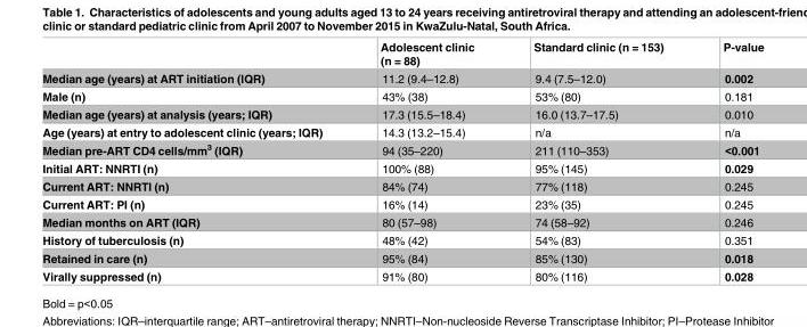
<table><thead><tr><td></td><td>Adolescent clinic (n = 88)</td><td>Standard clinic (n = 153)</td><td>P-value</td></tr></thead><tbody><tr><td>Median age (years) at ART initiation (IQR)</td><td>11.2 (9.4–12.8)</td><td>9.4 (7.5–12.0)</td><td>0.002</td></tr><tr><td>Male (n)</td><td>43% (38)</td><td>53% (80)</td><td>0.181</td></tr><tr><td>Median age (years) at analysis (years; IQR)</td><td>17.3 (15.5–18.4)</td><td>16.0 (13.7–17.5)</td><td>0.010</td></tr><tr><td>Age (years) at entry to adolescent clinic (years; IQR)</td><td>14.3 (13.2–15.4)</td><td>n/a</td><td>n/a</td></tr><tr><td>Median pre-ART CD4 cells/mm<sup>3</sup> (IQR)</td><td>94 (35–220)</td><td>211 (110–353)</td><td>&lt;0.001</td></tr><tr><td>Initial ART: NNRTI (n)</td><td>100% (88)</td><td>95% (145)</td><td>0.029</td></tr><tr><td>Current ART: NNRTI (n)</td><td>84% (74)</td><td>77% (118)</td><td>0.245</td></tr><tr><td>Current ART: PI (n)</td><td>16% (14)</td><td>23% (35)</td><td>0.245</td></tr><tr><td>Median months on ART (IQR)</td><td>80 (57–98)</td><td>74 (58–92)</td><td>0.246</td></tr><tr><td>History of tuberculosis (n)</td><td>48% (42)</td><td>54% (83)</td><td>0.351</td></tr><tr><td>Retained in care (n)</td><td>95% (84)</td><td>85% (130)</td><td>0.018</td></tr><tr><td>Virally suppressed (n)</td><td>91% (80)</td><td>80% (116)</td><td>0.028</td></tr></tbody></table>